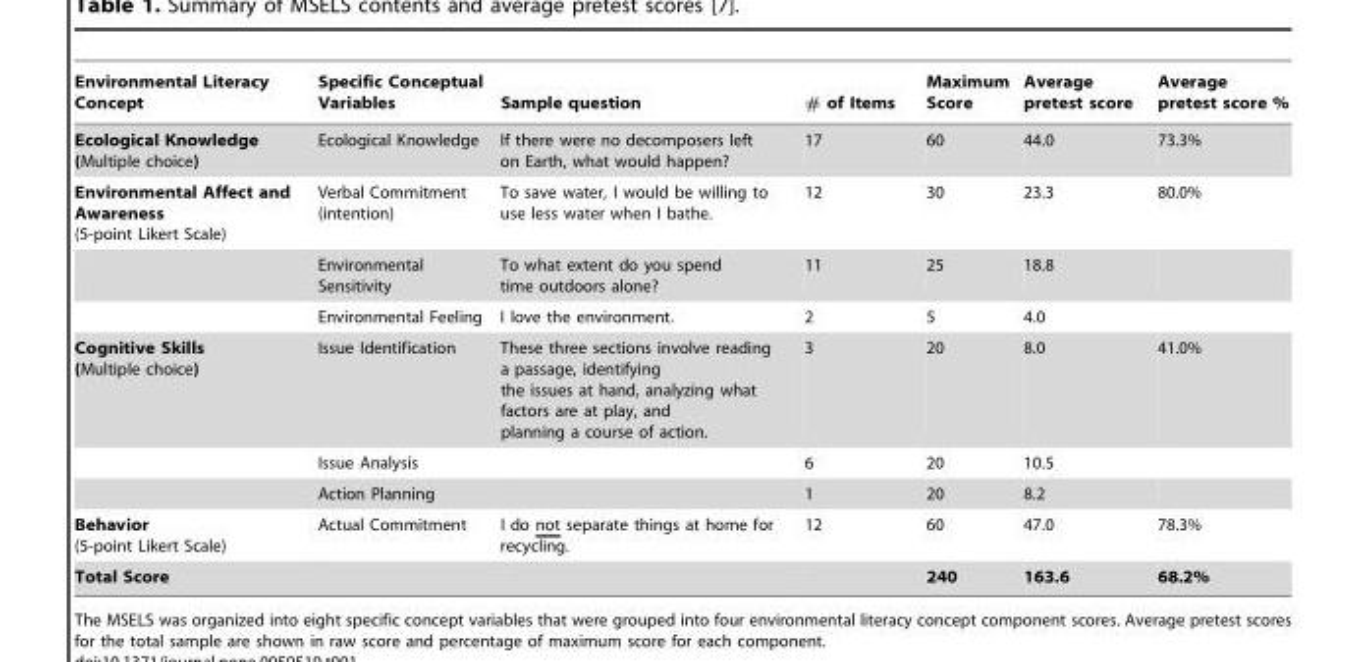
<table><thead><tr><td>Environmental Literacy Concept</td><td>Specific Conceptual Variables</td><td>Sample question</td><td># of Items</td><td>Maximum Score</td><td>Average pretest score</td><td>Average pretest score %</td></tr></thead><tbody><tr><td>Ecological Knowledge (Multiple choice)</td><td>Ecological Knowledge</td><td>If there were no decomposers left on Earth, what would happen?</td><td>17</td><td>60</td><td>44.0</td><td>73.3%</td></tr><tr><td rowspan="3">Environmental Affect and Awareness (5-point Likert Scale)</td><td>Verbal Commitment (intention)</td><td>To save water, I would be willing to use less water when I bathe.</td><td>12</td><td>30</td><td>23.3</td><td>80.0%</td></tr><tr><td>Environmental Sensitivity</td><td>To what extent do you spend time outdoors alone?</td><td>11</td><td>25</td><td>18.8</td><td></td></tr><tr><td>Environmental Feeling</td><td>I love the environment.</td><td>2</td><td>5</td><td>4.0</td><td></td></tr><tr><td rowspan="3">Cognitive Skills (Multiple choice)</td><td>Issue Identification</td><td>These three sections involve reading a passage, identifying the issues at hand, analyzing what factors are at play, and planning a course of action.</td><td>3</td><td>20</td><td>8.0</td><td>41.0%</td></tr><tr><td>Issue Analysis</td><td></td><td>6</td><td>20</td><td>10.5</td><td></td></tr><tr><td>Action Planning</td><td></td><td>1</td><td>20</td><td>8.2</td><td></td></tr><tr><td>Behavior (5-point Likert Scale)</td><td>Actual Commitment</td><td>I do not separate things at home for recycling.</td><td>12</td><td>60</td><td>47.0</td><td>78.3%</td></tr><tr><td>Total Score</td><td></td><td></td><td></td><td>240</td><td>163.6</td><td>68.2%</td></tr></tbody></table>